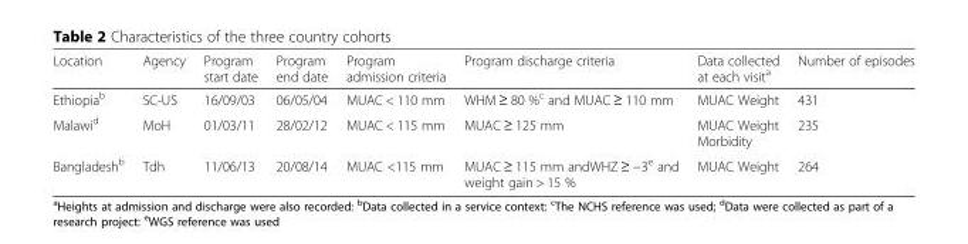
<table><thead><tr><td>Location</td><td>Agency</td><td>Program start date</td><td>Program end date</td><td>Program admission criteria</td><td>Program discharge criteria</td><td>Data collected at each visit<sup>a</sup></td><td>Number of episodes</td></tr></thead><tbody><tr><td>Ethiopia<sup>b</sup></td><td>SC-US</td><td>16/09/03</td><td>06/05/04</td><td>MUAC &lt; 110 mm</td><td>WHM ≥ 80 %<sup>c</sup> and MUAC ≥ 110 mm</td><td>MUAC Weight</td><td>431</td></tr><tr><td>Malawi<sup>d</sup></td><td>MoH</td><td>01/03/11</td><td>28/02/12</td><td>MUAC &lt; 115 mm</td><td>MUAC ≥ 125 mm</td><td>MUAC Weight Morbidity</td><td>235</td></tr><tr><td>Bangladesh<sup>b</sup></td><td>Tdh</td><td>11/06/13</td><td>20/08/14</td><td>MUAC &lt;115 mm</td><td>MUAC ≥ 115 mm andWHZ ≥ −3<sup>e</sup> and weight gain &gt; 15 %</td><td>MUAC Weight</td><td>264</td></tr></tbody></table>